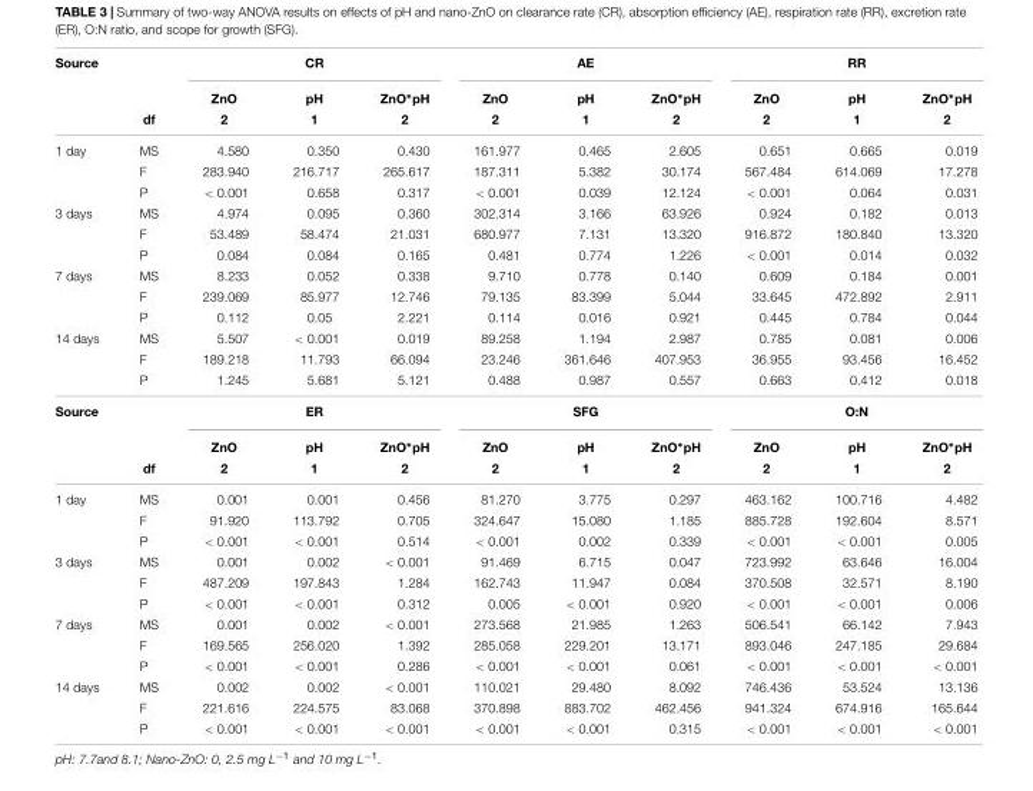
<table><thead><tr><td rowspan="3">Source</td><td rowspan="3">df</td><td colspan="3">CR</td><td colspan="3">AE</td><td colspan="3">RR</td></tr><tr><td rowspan="2">ZnO 2</td><td rowspan="2">pH 1</td><td rowspan="2">ZnO∗pH 2</td><td rowspan="2">ZnO 2</td><td rowspan="2">pH 1</td><td rowspan="2">ZnO∗pH 2</td><td rowspan="2">ZnO 2</td><td rowspan="2">pH 1</td><td rowspan="2">ZnO∗pH 2</td></tr><tr></tr></thead><tbody><tr><td rowspan="3">1 day</td><td>MS</td><td>4.580</td><td>0.350</td><td>0.430</td><td>161.977</td><td>0.465</td><td>2.605</td><td>0.651</td><td>0.665</td><td>0.019</td></tr><tr><td>F</td><td>283.940</td><td>216.717</td><td>265.617</td><td>187.311</td><td>5.382</td><td>30.174</td><td>567.484</td><td>614.069</td><td>17.278</td></tr><tr><td>P</td><td>&lt; 0.001</td><td>0.658</td><td>0.317</td><td>&lt; 0.001</td><td>0.039</td><td>12.124</td><td>&lt; 0.001</td><td>0.064</td><td>0.031</td></tr><tr><td rowspan="3">3 days</td><td>MS</td><td>4.974</td><td>0.095</td><td>0.360</td><td>302.314</td><td>3.166</td><td>63.926</td><td>0.924</td><td>0.182</td><td>0.013</td></tr><tr><td>F</td><td>53.489</td><td>58.474</td><td>21.031</td><td>680.977</td><td>7.131</td><td>13.320</td><td>916.872</td><td>180.840</td><td>13.320</td></tr><tr><td>P</td><td>0.084</td><td>0.084</td><td>0.165</td><td>0.481</td><td>0.774</td><td>1.226</td><td>&lt; 0.001</td><td>0.014</td><td>0.032</td></tr><tr><td rowspan="3">7 days</td><td>MS</td><td>8.233</td><td>0.052</td><td>0.338</td><td>9.710</td><td>0.778</td><td>0.140</td><td>0.609</td><td>0.184</td><td>0.001</td></tr><tr><td>F</td><td>239.069</td><td>85.977</td><td>12.746</td><td>79.135</td><td>83.399</td><td>5.044</td><td>33.645</td><td>472.892</td><td>2.911</td></tr><tr><td>P</td><td>0.112</td><td>0.05</td><td>2.221</td><td>0.114</td><td>0.016</td><td>0.921</td><td>0.445</td><td>0.784</td><td>0.044</td></tr><tr><td rowspan="3">14 days</td><td>MS</td><td>5.507</td><td>&lt; 0.001</td><td>0.019</td><td>89.258</td><td>1.194</td><td>2.987</td><td>0.785</td><td>0.081</td><td>0.006</td></tr><tr><td>F</td><td>189.218</td><td>11.793</td><td>66.094</td><td>23.246</td><td>361.646</td><td>407.953</td><td>36.955</td><td>93.456</td><td>16.452</td></tr><tr><td>P</td><td>1.245</td><td>5.681</td><td>5.121</td><td>0.488</td><td>0.987</td><td>0.557</td><td>0.663</td><td>0.412</td><td>0.018</td></tr><tr><td rowspan="3">Source</td><td></td><td colspan="3">ER</td><td colspan="3">SFG</td><td colspan="3">O:N</td></tr><tr><td></td><td>ZnO</td><td>pH</td><td>ZnO∗pH</td><td>ZnO</td><td>pH</td><td>ZnO∗pH</td><td>ZnO</td><td>pH</td><td>ZnO∗pH</td></tr><tr><td>df</td><td>2</td><td>1</td><td>2</td><td>2</td><td>1</td><td>2</td><td>2</td><td>1</td><td>2</td></tr><tr><td rowspan="3">1 day</td><td>MS</td><td>0.001</td><td>0.001</td><td>0.456</td><td>81.270</td><td>3.775</td><td>0.297</td><td>463.162</td><td>100.716</td><td>4.482</td></tr><tr><td>F</td><td>91.920</td><td>113.792</td><td>0.705</td><td>324.647</td><td>15.080</td><td>1.185</td><td>885.728</td><td>192.604</td><td>8.571</td></tr><tr><td>P</td><td>&lt; 0.001</td><td>&lt; 0.001</td><td>0.514</td><td>&lt; 0.001</td><td>0.002</td><td>0.339</td><td>&lt; 0.001</td><td>&lt; 0.001</td><td>0.005</td></tr><tr><td rowspan="3">3 days</td><td>MS</td><td>0.001</td><td>0.002</td><td>&lt; 0.001</td><td>91.469</td><td>6.715</td><td>0.047</td><td>723.992</td><td>63.646</td><td>16.004</td></tr><tr><td>F</td><td>487.209</td><td>197.843</td><td>1.284</td><td>162.743</td><td>11.947</td><td>0.084</td><td>370.508</td><td>32.571</td><td>8.190</td></tr><tr><td>P</td><td>&lt; 0.001</td><td>&lt; 0.001</td><td>0.312</td><td>0.005</td><td>&lt; 0.001</td><td>0.920</td><td>&lt; 0.001</td><td>&lt; 0.001</td><td>0.006</td></tr><tr><td rowspan="3">7 days</td><td>MS</td><td>0.001</td><td>0.002</td><td>&lt; 0.001</td><td>273.568</td><td>21.985</td><td>1.263</td><td>506.541</td><td>66.142</td><td>7.943</td></tr><tr><td>F</td><td>169.565</td><td>256.020</td><td>1.392</td><td>285.058</td><td>229.201</td><td>13.171</td><td>893.046</td><td>247.185</td><td>29.684</td></tr><tr><td>P</td><td>&lt; 0.001</td><td>&lt; 0.001</td><td>0.286</td><td>&lt; 0.001</td><td>&lt; 0.001</td><td>0.061</td><td>&lt; 0.001</td><td>&lt; 0.001</td><td>&lt; 0.001</td></tr><tr><td rowspan="3">14 days</td><td>MS</td><td>0.002</td><td>0.002</td><td>&lt; 0.001</td><td>110.021</td><td>29.480</td><td>8.092</td><td>746.436</td><td>53.524</td><td>13.136</td></tr><tr><td>F</td><td>221.616</td><td>224.575</td><td>83.068</td><td>370.898</td><td>883.702</td><td>462.456</td><td>941.324</td><td>674.916</td><td>165.644</td></tr><tr><td>P</td><td>&lt; 0.001</td><td>&lt; 0.001</td><td>&lt; 0.001</td><td>&lt; 0.001</td><td>&lt; 0.001</td><td>0.315</td><td>&lt; 0.001</td><td>&lt; 0.001</td><td>&lt; 0.001</td></tr></tbody></table>